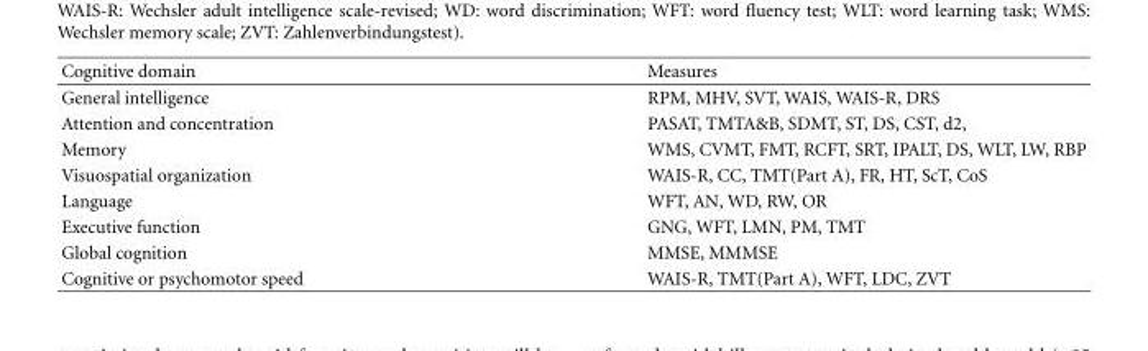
<table><thead><tr><td>Cognitive domain</td><td>Measures</td></tr></thead><tbody><tr><td>General intelligence</td><td>RPM, MHV, SVT, WAIS, WAIS-R, DRS</td></tr><tr><td>Attention and concentration</td><td>PASAT, TMTA&amp;B, SDMT, ST, DS, CST, d2,</td></tr><tr><td>Memory</td><td>WMS, CVMT, FMT, RCFT, SRT, IPALT, DS, WLT, LW, RBP</td></tr><tr><td>Visuospatial organization</td><td>WAIS-R, CC, TMT(Part A), FR, HT, ScT, CoS</td></tr><tr><td>Language</td><td>WFT, AN, WD, RW, OR</td></tr><tr><td>Executive function</td><td>GNG, WFT, LMN, PM, TMT</td></tr><tr><td>Global cognition</td><td>MMSE, MMMSE</td></tr><tr><td>Cognitive or psychomotor speed</td><td>WAIS-R, TMT(Part A), WFT, LDC, ZVT</td></tr></tbody></table>